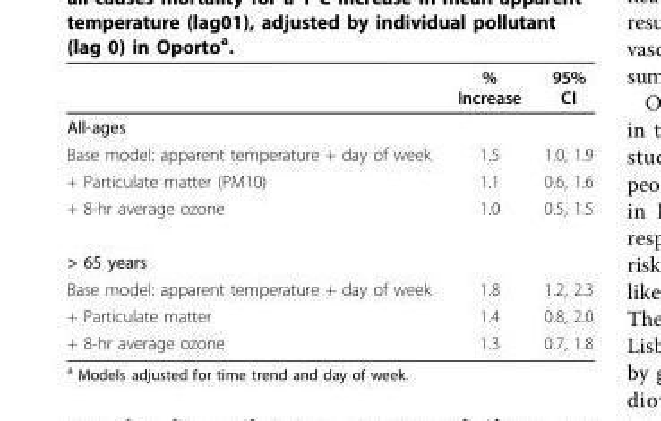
<table><thead><tr><td></td><td>% Increase</td><td>95% CI</td></tr></thead><tbody><tr><td colspan="3">All-ages</td></tr><tr><td>Base model: apparent temperature + day of week</td><td>1.5</td><td>1.0, 1.9</td></tr><tr><td>+ Particulate matter (PM10)</td><td>1.1</td><td>0.6, 1.6</td></tr><tr><td>+ 8-hr average ozone</td><td>1.0</td><td>0.5, 1.5</td></tr><tr><td colspan="3">&gt; 65 years</td></tr><tr><td>Base model: apparent temperature + day of week</td><td>1.8</td><td>1.2, 2.3</td></tr><tr><td>+ Particulate matter</td><td>1.4</td><td>0.8, 2.0</td></tr><tr><td>+ 8-hr average ozone</td><td>1.3</td><td>0.7, 1.8</td></tr></tbody></table>